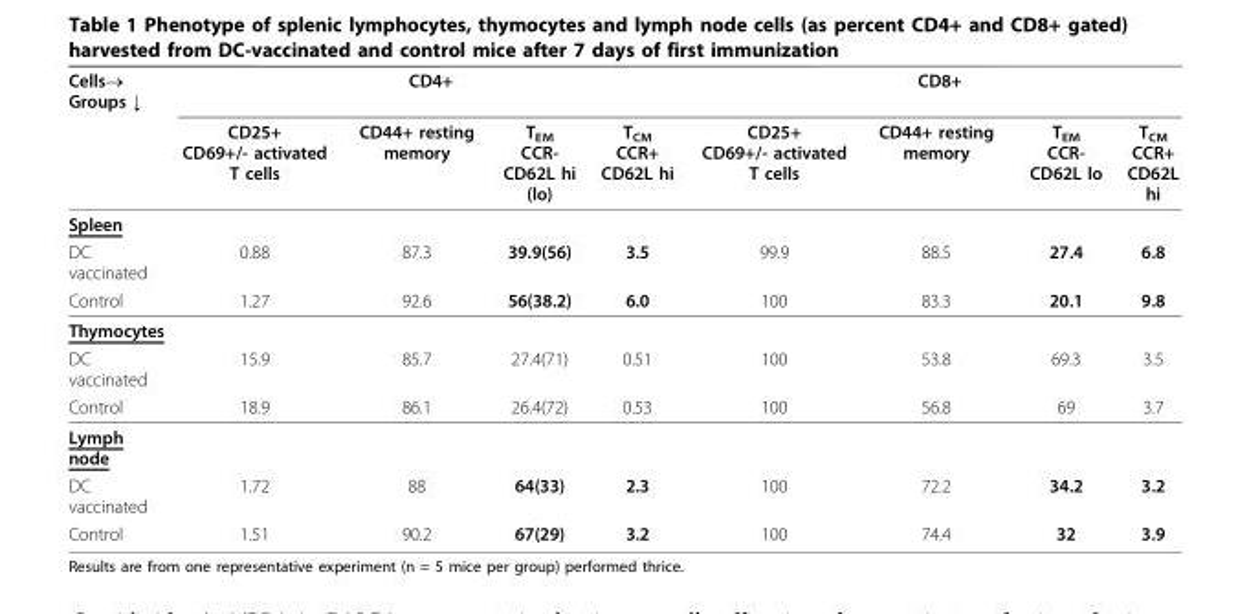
<table><thead><tr><td rowspan="2">Cells→ Groups ↓</td><td colspan="4">CD4+</td><td colspan="4">CD8+</td></tr><tr><td>CD25+ CD69+/- activated T cells</td><td>CD44+ resting memory</td><td>T<sub>EM</sub> CCR- CD62L hi (lo)</td><td>T<sub>CM</sub> CCR+ CD62L hi</td><td>CD25+ CD69+/- activated T cells</td><td>CD44+ resting memory</td><td>T<sub>EM</sub> CCR- CD62L lo</td><td>T<sub>CM</sub> CCR+ CD62L hi</td></tr></thead><tbody><tr><td colspan="9">Spleen</td></tr><tr><td>DC vaccinated</td><td>0.88</td><td>87.3</td><td>39.9(56)</td><td>3.5</td><td>99.9</td><td>88.5</td><td>27.4</td><td>6.8</td></tr><tr><td>Control</td><td>1.27</td><td>92.6</td><td>56(38.2)</td><td>6.0</td><td>100</td><td>83.3</td><td>20.1</td><td>9.8</td></tr><tr><td colspan="9">Thymocytes</td></tr><tr><td>DC vaccinated</td><td>15.9</td><td>85.7</td><td>27.4(71)</td><td>0.51</td><td>100</td><td>53.8</td><td>69.3</td><td>3.5</td></tr><tr><td>Control</td><td>18.9</td><td>86.1</td><td>26.4(72)</td><td>0.53</td><td>100</td><td>56.8</td><td>69</td><td>3.7</td></tr><tr><td colspan="9">Lymph node</td></tr><tr><td>DC vaccinated</td><td>1.72</td><td>88</td><td>64(33)</td><td>2.3</td><td>100</td><td>72.2</td><td>34.2</td><td>3.2</td></tr><tr><td>Control</td><td>1.51</td><td>90.2</td><td>67(29)</td><td>3.2</td><td>100</td><td>74.4</td><td>32</td><td>3.9</td></tr></tbody></table>